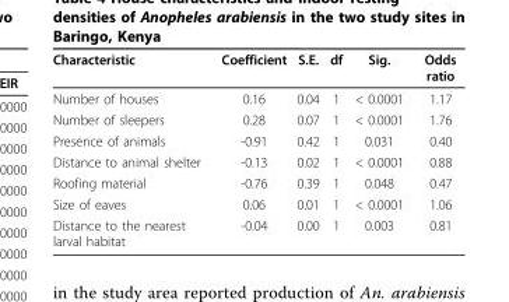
<table><thead><tr><td>Characteristic</td><td>Coefficient</td><td>S.E.</td><td>df</td><td>Sig.</td><td>Odds ratio</td></tr></thead><tbody><tr><td>Number of houses</td><td>0.16</td><td>0.04</td><td>1</td><td>&lt; 0.0001</td><td>1.17</td></tr><tr><td>Number of sleepers</td><td>0.28</td><td>0.07</td><td>1</td><td>&lt; 0.0001</td><td>1.76</td></tr><tr><td>Presence of animals</td><td>-0.91</td><td>0.42</td><td>1</td><td>0.031</td><td>0.40</td></tr><tr><td>Distance to animal shelter</td><td>-0.13</td><td>0.02</td><td>1</td><td>&lt; 0.0001</td><td>0.88</td></tr><tr><td>Roofing material</td><td>-0.76</td><td>0.39</td><td>1</td><td>0.048</td><td>0.47</td></tr><tr><td>Size of eaves</td><td>0.06</td><td>0.01</td><td>1</td><td>&lt; 0.0001</td><td>1.06</td></tr><tr><td>Distance to the nearest larval habitat</td><td>-0.04</td><td>0.00</td><td>1</td><td>0.003</td><td>0.81</td></tr></tbody></table>